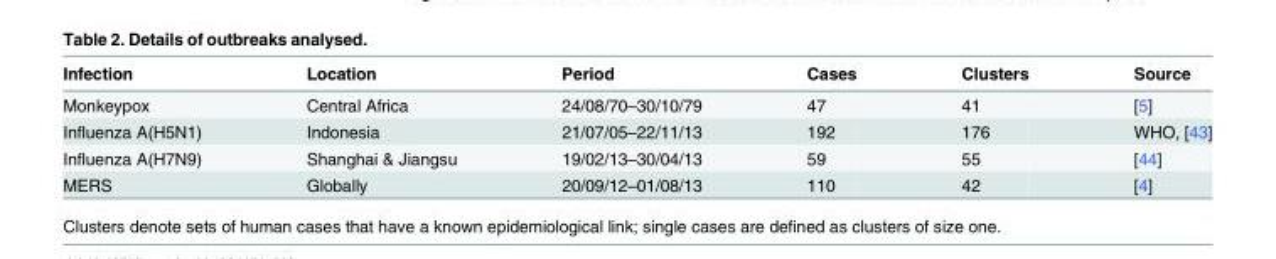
<table><thead><tr><td>Infection</td><td>Location</td><td>Period</td><td>Cases</td><td>Clusters</td><td>Source</td></tr></thead><tbody><tr><td>Monkeypox</td><td>Central Africa</td><td>24/08/70–30/10/79</td><td>47</td><td>41</td><td>[5]</td></tr><tr><td>Influenza A(H5N1)</td><td>Indonesia</td><td>21/07/05–22/11/13</td><td>192</td><td>176</td><td>WHO, [43]</td></tr><tr><td>Influenza A(H7N9)</td><td>Shanghai &amp; Jiangsu</td><td>19/02/13–30/04/13</td><td>59</td><td>55</td><td>[44]</td></tr><tr><td>MERS</td><td>Globally</td><td>20/09/12–01/08/13</td><td>110</td><td>42</td><td>[4]</td></tr></tbody></table>